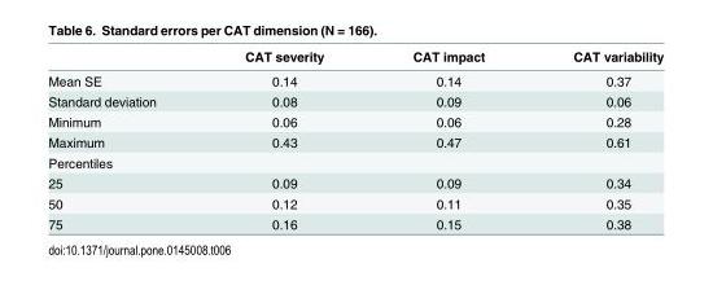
<table><thead><tr><td></td><td>CAT severity</td><td>CAT impact</td><td>CAT variability</td></tr></thead><tbody><tr><td>Mean SE</td><td>0.14</td><td>0.14</td><td>0.37</td></tr><tr><td>Standard deviation</td><td>0.08</td><td>0.09</td><td>0.06</td></tr><tr><td>Minimum</td><td>0.06</td><td>0.06</td><td>0.28</td></tr><tr><td>Maximum</td><td>0.43</td><td>0.47</td><td>0.61</td></tr><tr><td colspan="4">Percentiles</td></tr><tr><td>25</td><td>0.09</td><td>0.09</td><td>0.34</td></tr><tr><td>50</td><td>0.12</td><td>0.11</td><td>0.35</td></tr><tr><td>75</td><td>0.16</td><td>0.15</td><td>0.38</td></tr></tbody></table>